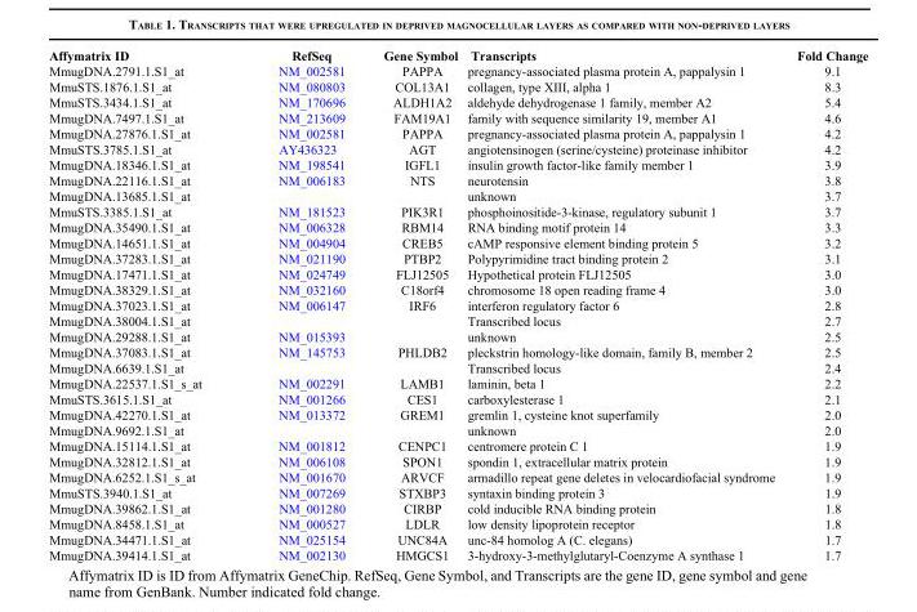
<table><thead><tr><td>Affymatrix ID</td><td>RefSeq</td><td>Gene Symbol</td><td>Transcripts</td><td>Fold Change</td></tr></thead><tbody><tr><td>MmugDNA.2791.1.S1_at</td><td>NM_002581</td><td>PAPPA</td><td>pregnancy-associated plasma protein A, pappalysin 1</td><td>9.1</td></tr><tr><td>MmuSTS.1876.1.S1_at</td><td>NM_080803</td><td>COL13A1</td><td>collagen, type XIII, alpha 1</td><td>8.3</td></tr><tr><td>MmuSTS.3434.1.S1_at</td><td>NM_170696</td><td>ALDH1A2</td><td>aldehyde dehydrogenase 1 family, member A2</td><td>5.4</td></tr><tr><td>MmugDNA.7497.1.S1_at</td><td>NM_213609</td><td>FAM19A1</td><td>family with sequence similarity 19, member A1</td><td>4.6</td></tr><tr><td>MmugDNA.27876.1.S1_at</td><td>NM_002581</td><td>PAPPA</td><td>pregnancy-associated plasma protein A, pappalysin 1</td><td>4.2</td></tr><tr><td>MmuSTS.3785.1.S1_at</td><td>AY436323</td><td>AGT</td><td>angiotensinogen (serine/cysteine) proteinase inhibitor</td><td>4.2</td></tr><tr><td>MmugDNA.18346.1.S1_at</td><td>NM_198541</td><td>IGFL1</td><td>insulin growth factor-like family member 1</td><td>3.9</td></tr><tr><td>MmugDNA.22116.1.S1_at</td><td>NM_006183</td><td>NTS</td><td>neurotensin</td><td>3.8</td></tr><tr><td>MmugDNA.13685.1.S1_at</td><td></td><td></td><td>unknown</td><td>3.7</td></tr><tr><td>MmuSTS.3385.1.S1_at</td><td>NM_181523</td><td>PIK3R1</td><td>phosphoinositide-3-kinase, regulatory subunit 1</td><td>3.7</td></tr><tr><td>MmugDNA.35490.1.S1_at</td><td>NM_006328</td><td>RBM14</td><td>RNA binding motif protein 14</td><td>3.3</td></tr><tr><td>MmugDNA.14651.1.S1_at</td><td>NM_004904</td><td>CREB5</td><td>cAMP responsive element binding protein 5</td><td>3.2</td></tr><tr><td>MmugDNA.37283.1.S1_at</td><td>NM_021190</td><td>PTBP2</td><td>Polypyrimidine tract binding protein 2</td><td>3.1</td></tr><tr><td>MmugDNA.17471.1.S1_at</td><td>NM_024749</td><td>FLJ12505</td><td>Hypothetical protein FLJ12505</td><td>3.0</td></tr><tr><td>MmugDNA.38329.1.S1_at</td><td>NM_032160</td><td>C18orf4</td><td>chromosome 18 open reading frame 4</td><td>3.0</td></tr><tr><td>MmugDNA.37023.1.S1_at</td><td>NM_006147</td><td>IRF6</td><td>interferon regulatory factor 6</td><td>2.8</td></tr><tr><td>MmugDNA.38004.1.S1_at</td><td></td><td></td><td>Transcribed locus</td><td>2.7</td></tr><tr><td>MmugDNA.29288.1.S1_at</td><td>NM_015393</td><td></td><td>unknown</td><td>2.5</td></tr><tr><td>MmugDNA.37083.1.S1_at</td><td>NM_145753</td><td>PHLDB2</td><td>pleckstrin homology-like domain, family B, member 2</td><td>2.5</td></tr><tr><td>MmugDNA.6639.1.S1_at</td><td></td><td></td><td>Transcribed locus</td><td>2.4</td></tr><tr><td>MmugDNA.22537.1.S1_s_at</td><td>NM_002291</td><td>LAMB1</td><td>laminin, beta 1</td><td>2.2</td></tr><tr><td>MmuSTS.3615.1.S1_at</td><td>NM_001266</td><td>CES1</td><td>carboxylesterase 1</td><td>2.1</td></tr><tr><td>MmugDNA.42270.1.S1_at</td><td>NM_013372</td><td>GREM1</td><td>gremlin 1, cysteine knot superfamily</td><td>2.0</td></tr><tr><td>MmugDNA.9692.1.S1_at</td><td></td><td></td><td>unknown</td><td>2.0</td></tr><tr><td>MmugDNA.15114.1.S1_at</td><td>NM_001812</td><td>CENPC1</td><td>centromere protein C 1</td><td>1.9</td></tr><tr><td>MmugDNA.32812.1.S1_at</td><td>NM_006108</td><td>SPON1</td><td>spondin 1, extracellular matrix protein</td><td>1.9</td></tr><tr><td>MmugDNA.6252.1.S1_s_at</td><td>NM_001670</td><td>ARVCF</td><td>armadillo repeat gene deletes in velocardiofacial syndrome</td><td>1.9</td></tr><tr><td>MmuSTS.3940.1.S1_at</td><td>NM_007269</td><td>STXBP3</td><td>syntaxin binding protein 3</td><td>1.9</td></tr><tr><td>MmugDNA.39862.1.S1_at</td><td>NM_001280</td><td>CIRBP</td><td>cold inducible RNA binding protein</td><td>1.8</td></tr><tr><td>MmugDNA.8458.1.S1_at</td><td>NM_000527</td><td>LDLR</td><td>low density lipoprotein receptor</td><td>1.8</td></tr><tr><td>MmugDNA.34471.1.S1_at</td><td>NM_025154</td><td>UNC84A</td><td>unc-84 homolog A (C. elegans)</td><td>1.7</td></tr><tr><td>MmugDNA.39414.1.S1_at</td><td>NM_002130</td><td>HMGCS1</td><td>3-hydroxy-3-methylglutaryl-Coenzyme A synthase 1</td><td>1.7</td></tr></tbody></table>